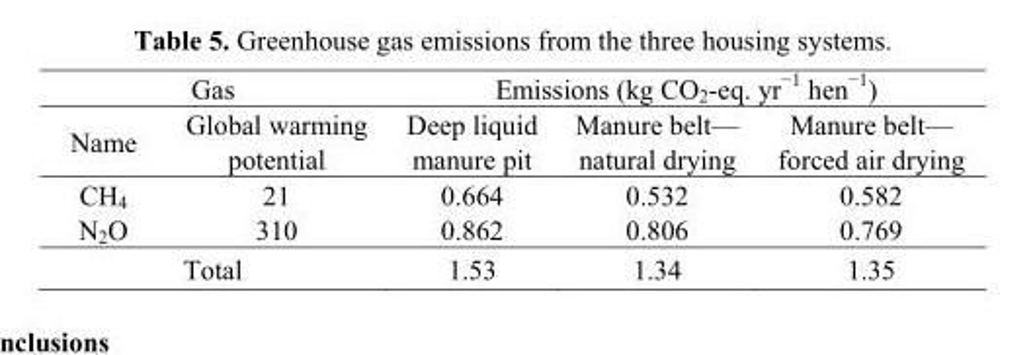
<table><thead><tr><td colspan="2">Gas</td><td colspan="3">Emissions (kg CO<sub>2</sub>-eq. yr<sup>−1</sup> hen<sup>−1</sup>)</td></tr><tr><td>Name</td><td>Global warming potential</td><td>Deep liquid manure pit</td><td>Manure belt— natural drying</td><td>Manure belt— forced air drying</td></tr></thead><tbody><tr><td>CH<sub>4</sub></td><td>21</td><td>0.664</td><td>0.532</td><td>0.582</td></tr><tr><td>N<sub>2</sub>O</td><td>310</td><td>0.862</td><td>0.806</td><td>0.769</td></tr><tr><td colspan="2">Total</td><td>1.53</td><td>1.34</td><td>1.35</td></tr></tbody></table>